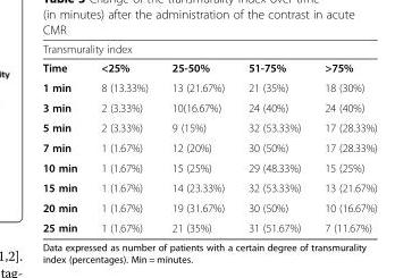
<table><thead><tr><td colspan="5">Transmurality index</td></tr><tr><td>Time</td><td>&lt;25%</td><td>25-50%</td><td>51-75%</td><td>&gt;75%</td></tr></thead><tbody><tr><td>1 min</td><td>8 (13.33%)</td><td>13 (21.67%)</td><td>21 (35%)</td><td>18 (30%)</td></tr><tr><td>3 min</td><td>2 (3.33%)</td><td>10(16.67%)</td><td>24 (40%)</td><td>24 (40%)</td></tr><tr><td>5 min</td><td>2 (3.33%)</td><td>9 (15%)</td><td>32 (53.33%)</td><td>17 (28.33%)</td></tr><tr><td>7 min</td><td>1 (1.67%)</td><td>12 (20%)</td><td>30 (50%)</td><td>17 (28.33%)</td></tr><tr><td>10 min</td><td>1 (1.67%)</td><td>15 (25%)</td><td>29 (48.33%)</td><td>15 (25%)</td></tr><tr><td>15 min</td><td>1 (1.67%)</td><td>14 (23.33%)</td><td>32 (53.33%)</td><td>13 (21.67%)</td></tr><tr><td>20 min</td><td>1 (1.67%)</td><td>19 (31.67%)</td><td>30 (50%)</td><td>10 (16.67%)</td></tr><tr><td>25 min</td><td>1 (1.67%)</td><td>21 (35%)</td><td>31 (51.67%)</td><td>7 (11.67%)</td></tr></tbody></table>